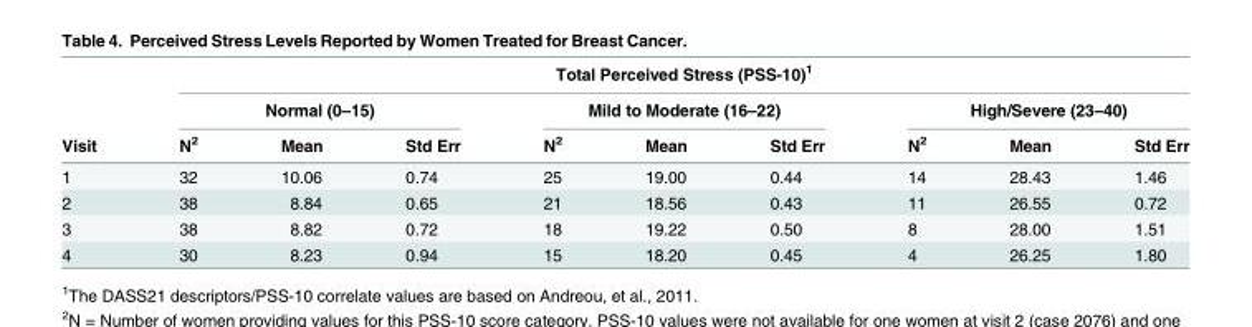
<table><thead><tr><td rowspan="3">Visit</td><td colspan="9">Total Perceived Stress (PSS-10)<sup>1</sup></td></tr><tr><td colspan="3">Normal (0–15)</td><td colspan="3">Mild to Moderate (16–22)</td><td colspan="3">High/Severe (23–40)</td></tr><tr><td>N<sup>2</sup></td><td>Mean</td><td>Std Err</td><td>N<sup>2</sup></td><td>Mean</td><td>Std Err</td><td>N<sup>2</sup></td><td>Mean</td><td>Std Err</td></tr></thead><tbody><tr><td>1</td><td>32</td><td>10.06</td><td>0.74</td><td>25</td><td>19.00</td><td>0.44</td><td>14</td><td>28.43</td><td>1.46</td></tr><tr><td>2</td><td>38</td><td>8.84</td><td>0.65</td><td>21</td><td>18.56</td><td>0.43</td><td>11</td><td>26.55</td><td>0.72</td></tr><tr><td>3</td><td>38</td><td>8.82</td><td>0.72</td><td>18</td><td>19.22</td><td>0.50</td><td>8</td><td>28.00</td><td>1.51</td></tr><tr><td>4</td><td>30</td><td>8.23</td><td>0.94</td><td>15</td><td>18.20</td><td>0.45</td><td>4</td><td>26.25</td><td>1.80</td></tr></tbody></table>